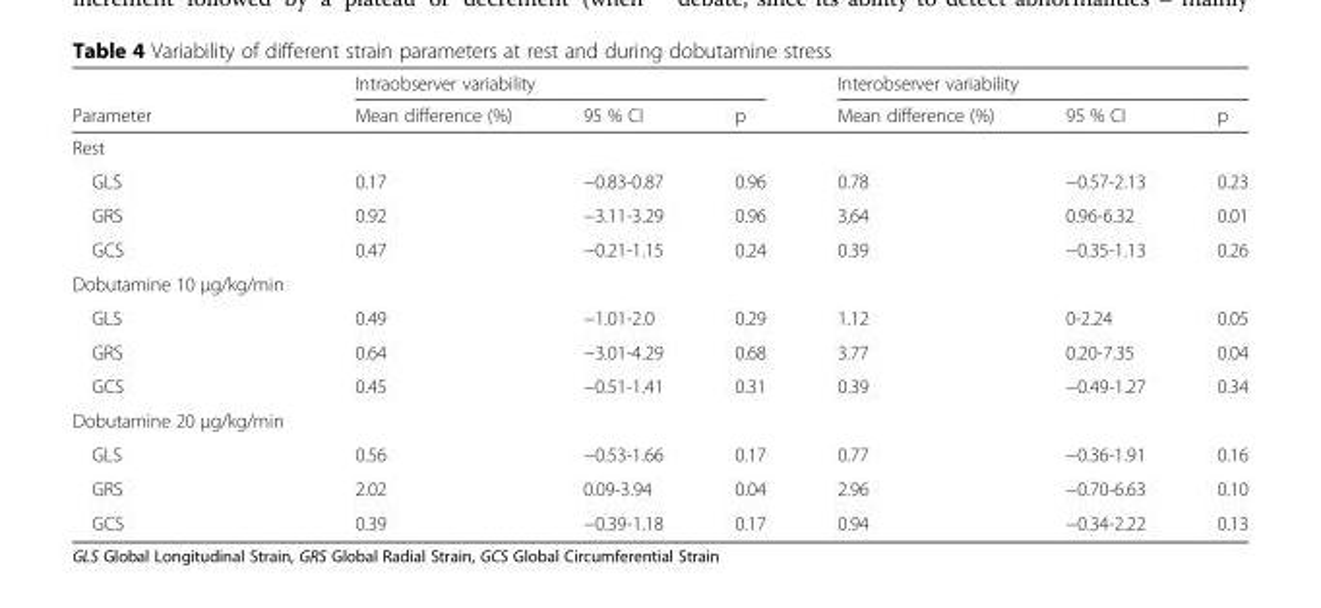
<table><thead><tr><td rowspan="2">Parameter</td><td colspan="3">Intraobserver variability</td><td colspan="3">Interobserver variability</td></tr><tr><td>Mean difference (%)</td><td>95 % CI</td><td>p</td><td>Mean difference (%)</td><td>95 % CI</td><td>p</td></tr></thead><tbody><tr><td colspan="7">Rest</td></tr><tr><td>GLS</td><td>0.17</td><td>−0.83-0.87</td><td>0.96</td><td>0.78</td><td>−0.57-2.13</td><td>0.23</td></tr><tr><td>GRS</td><td>0.92</td><td>−3.11-3.29</td><td>0.96</td><td>3,64</td><td>0.96-6.32</td><td>0.01</td></tr><tr><td>GCS</td><td>0.47</td><td>−0.21-1.15</td><td>0.24</td><td>0.39</td><td>−0.35-1.13</td><td>0.26</td></tr><tr><td colspan="7">Dobutamine 10 μg/kg/min</td></tr><tr><td>GLS</td><td>0.49</td><td>−1.01-2.0</td><td>0.29</td><td>1.12</td><td>0-2.24</td><td>0.05</td></tr><tr><td>GRS</td><td>0.64</td><td>−3.01-4.29</td><td>0.68</td><td>3.77</td><td>0.20-7.35</td><td>0.04</td></tr><tr><td>GCS</td><td>0.45</td><td>−0.51-1.41</td><td>0.31</td><td>0.39</td><td>−0.49-1.27</td><td>0.34</td></tr><tr><td colspan="7">Dobutamine 20 μg/kg/min</td></tr><tr><td>GLS</td><td>0.56</td><td>−0.53-1.66</td><td>0.17</td><td>0.77</td><td>−0.36-1.91</td><td>0.16</td></tr><tr><td>GRS</td><td>2.02</td><td>0.09-3.94</td><td>0.04</td><td>2.96</td><td>−0.70-6.63</td><td>0.10</td></tr><tr><td>GCS</td><td>0.39</td><td>−0.39-1.18</td><td>0.17</td><td>0.94</td><td>−0.34-2.22</td><td>0.13</td></tr></tbody></table>